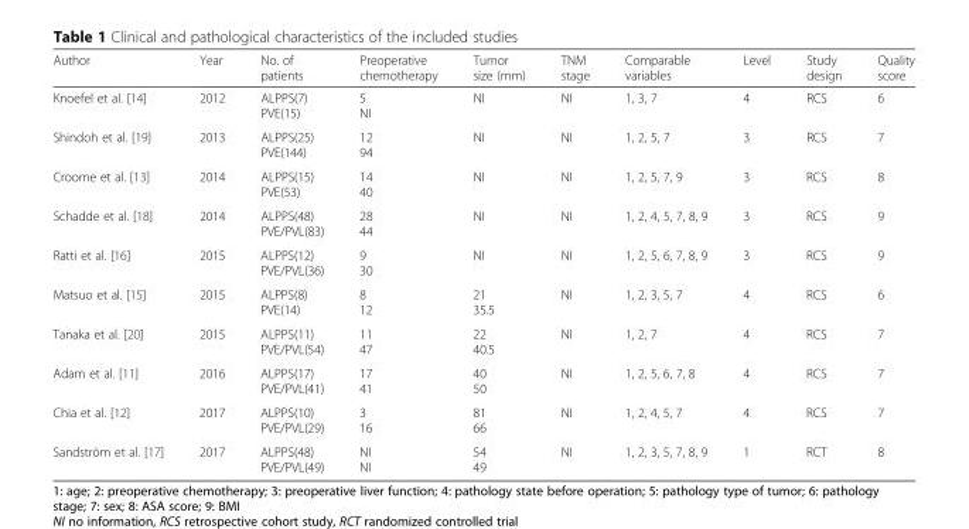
<table><thead><tr><td>Author</td><td>Year</td><td>No. of patients</td><td>Preoperative chemotherapy</td><td>Tumor size (mm)</td><td>TNM stage</td><td>Comparable variables</td><td>Level</td><td>Study design</td><td>Quality score</td></tr></thead><tbody><tr><td>Knoefel et al. [14]</td><td>2012</td><td>ALPPS(7) PVE(15)</td><td>5 NI</td><td>NI</td><td>NI</td><td>1, 3, 7</td><td>4</td><td>RCS</td><td>6</td></tr><tr><td>Shindoh et al. [19]</td><td>2013</td><td>ALPPS(25) PVE(144)</td><td>12 94</td><td>NI</td><td>NI</td><td>1, 2, 5, 7</td><td>3</td><td>RCS</td><td>7</td></tr><tr><td>Croome et al. [13]</td><td>2014</td><td>ALPPS(15) PVE(53)</td><td>14 40</td><td>NI</td><td>NI</td><td>1, 2, 5, 7, 9</td><td>3</td><td>RCS</td><td>8</td></tr><tr><td>Schadde et al. [18]</td><td>2014</td><td>ALPPS(48) PVE/PVL(83)</td><td>28 44</td><td>NI</td><td>NI</td><td>1, 2, 4, 5, 7, 8, 9</td><td>3</td><td>RCS</td><td>9</td></tr><tr><td>Ratti et al. [16]</td><td>2015</td><td>ALPPS(12) PVE/PVL(36)</td><td>9 30</td><td>NI</td><td>NI</td><td>1, 2, 5, 6, 7, 8, 9</td><td>3</td><td>RCS</td><td>9</td></tr><tr><td>Matsuo et al. [15]</td><td>2015</td><td>ALPPS(8) PVE(14)</td><td>8 12</td><td>21 35.5</td><td>NI</td><td>1, 2, 3, 5, 7</td><td>4</td><td>RCS</td><td>6</td></tr><tr><td>Tanaka et al. [20]</td><td>2015</td><td>ALPPS(11) PVE/PVL(54)</td><td>11 47</td><td>22 40.5</td><td>NI</td><td>1, 2, 7</td><td>4</td><td>RCS</td><td>7</td></tr><tr><td>Adam et al. [11]</td><td>2016</td><td>ALPPS(17) PVE/PVL(41)</td><td>17 41</td><td>40 50</td><td>NI</td><td>1, 2, 5, 6, 7, 8</td><td>4</td><td>RCS</td><td>7</td></tr><tr><td>Chia et al. [12]</td><td>2017</td><td>ALPPS(10) PVE/PVL(29)</td><td>3 16</td><td>81 66</td><td>NI</td><td>1, 2, 4, 5, 7</td><td>4</td><td>RCS</td><td>7</td></tr><tr><td>Sandström et al. [17]</td><td>2017</td><td>ALPPS(48) PVE/PVL(49)</td><td>NI NI</td><td>54 49</td><td>NI</td><td>1, 2, 3, 5, 7, 8, 9</td><td>1</td><td>RCT</td><td>8</td></tr></tbody></table>